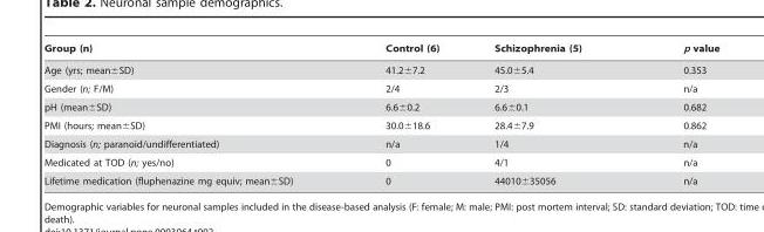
<table><thead><tr><td>Group (n)</td><td>Control (6)</td><td>Schizophrenia (5)</td><td>p value</td></tr></thead><tbody><tr><td>Age (yrs; mean±SD)</td><td>41.2±7.2</td><td>45.0±5.4</td><td>0.353</td></tr><tr><td>Gender (n; F/M)</td><td>2/4</td><td>2/3</td><td>n/a</td></tr><tr><td>pH (mean±SD)</td><td>6.6±0.2</td><td>6.6±0.1</td><td>0.682</td></tr><tr><td>PMI (hours; mean±SD)</td><td>30.0±18.6</td><td>28.4±7.9</td><td>0.862</td></tr><tr><td>Diagnosis (n; paranoid/undifferentiated)</td><td>n/a</td><td>1/4</td><td>n/a</td></tr><tr><td>Medicated at TOD (n; yes/no)</td><td>0</td><td>4/1</td><td>n/a</td></tr><tr><td>Lifetime medication (fluphenazine mg equiv; mean±SD)</td><td>0</td><td>44010±35056</td><td>n/a</td></tr></tbody></table>